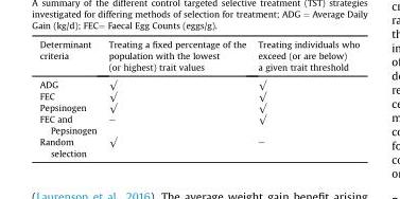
<table><thead><tr><td>Determinant criteria</td><td>Treating a fixed percentage of the population with the lowest (or highest) trait values</td><td>Treating individuals who exceed (or are below) a given trait threshold</td></tr></thead><tbody><tr><td>ADG</td><td>√</td><td>√</td></tr><tr><td>FEC</td><td>√</td><td>√</td></tr><tr><td>Pepsinogen</td><td>√</td><td>√</td></tr><tr><td>FEC and Pepsinogen</td><td>–</td><td>√</td></tr><tr><td>Random selection</td><td>√</td><td>–</td></tr></tbody></table>